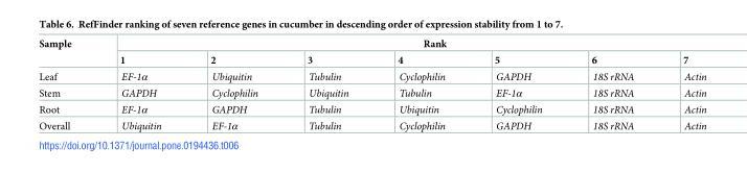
<table><thead><tr><td rowspan="2">Sample</td><td colspan="7">Rank</td></tr><tr><td>1</td><td>2</td><td>3</td><td>4</td><td>5</td><td>6</td><td>7</td></tr></thead><tbody><tr><td>Leaf</td><td>EF-1α</td><td>Ubiquitin</td><td>Tubulin</td><td>Cyclophilin</td><td>GAPDH</td><td>18S rRNA</td><td>Actin</td></tr><tr><td>Stem</td><td>GAPDH</td><td>Cyclophilin</td><td>Ubiquitin</td><td>Tubulin</td><td>EF-1α</td><td>18S rRNA</td><td>Actin</td></tr><tr><td>Root</td><td>EF-1α</td><td>GAPDH</td><td>Tubulin</td><td>Ubiquitin</td><td>Cyclophilin</td><td>18S rRNA</td><td>Actin</td></tr><tr><td>Overall</td><td>Ubiquitin</td><td>EF-1α</td><td>Tubulin</td><td>Cyclophilin</td><td>GAPDH</td><td>18S rRNA</td><td>Actin</td></tr></tbody></table>